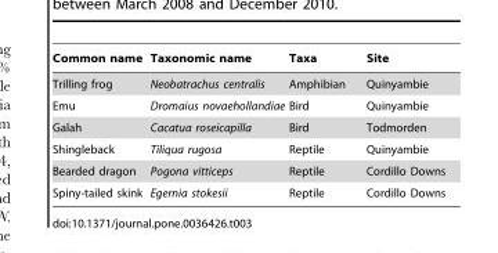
<table><thead><tr><td>Common name</td><td>Taxonomic name</td><td>Taxa</td><td>Site</td></tr></thead><tbody><tr><td>Trilling frog</td><td>Neobatrachus centralis</td><td>Amphibian</td><td>Quinyambie</td></tr><tr><td>Emu</td><td>Dromaius novaehollandiae</td><td>Bird</td><td>Quinyambie</td></tr><tr><td>Galah</td><td>Cacatua roseicapilla</td><td>Bird</td><td>Todmorden</td></tr><tr><td>Shingleback</td><td>Tiliqua rugosa</td><td>Reptile</td><td>Quinyambie</td></tr><tr><td>Bearded dragon</td><td>Pogona vitticeps</td><td>Reptile</td><td>Cordillo Downs</td></tr><tr><td>Spiny-tailed skink</td><td>Egernia stokesii</td><td>Reptile</td><td>Cordillo Downs</td></tr></tbody></table>